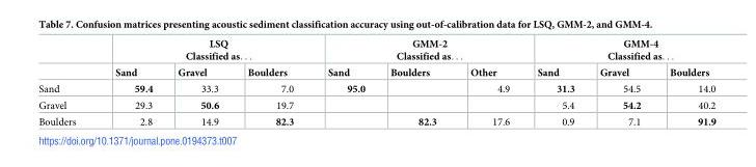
<table><thead><tr><td rowspan="2"></td><td colspan="3">LSQ Classified as. . .</td><td colspan="3">GMM-2 Classified as. . .</td><td colspan="3">GMM-4 Classified as. . .</td></tr><tr><td>Sand</td><td>Gravel</td><td>Boulders</td><td>Sand</td><td>Boulders</td><td>Other</td><td>Sand</td><td>Gravel</td><td>Boulders</td></tr></thead><tbody><tr><td>Sand</td><td>59.4</td><td>33.3</td><td>7.0</td><td>95.0</td><td></td><td>4.9</td><td>31.3</td><td>54.5</td><td>14.0</td></tr><tr><td>Gravel</td><td>29.3</td><td>50.6</td><td>19.7</td><td></td><td></td><td></td><td>5.4</td><td>54.2</td><td>40.2</td></tr><tr><td>Boulders</td><td>2.8</td><td>14.9</td><td>82.3</td><td></td><td>82.3</td><td>17.6</td><td>0.9</td><td>7.1</td><td>91.9</td></tr></tbody></table>